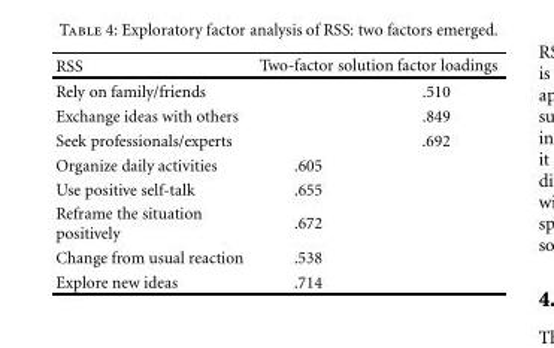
<table><thead><tr><td rowspan="2">RSS Rely on family/friends</td><td colspan="2">Two-factor solution factor loadings</td></tr><tr><td></td><td>.510</td></tr></thead><tbody><tr><td>Exchange ideas with others</td><td></td><td>.849</td></tr><tr><td>Seek professionals/experts</td><td></td><td>.692</td></tr><tr><td>Organize daily activities</td><td>.605</td><td></td></tr><tr><td>Use positive self-talk</td><td>.655</td><td></td></tr><tr><td>Reframe the situation positively</td><td>.672</td><td></td></tr><tr><td>Change from usual reaction</td><td>.538</td><td></td></tr><tr><td>Explore new ideas</td><td>.714</td><td></td></tr></tbody></table>